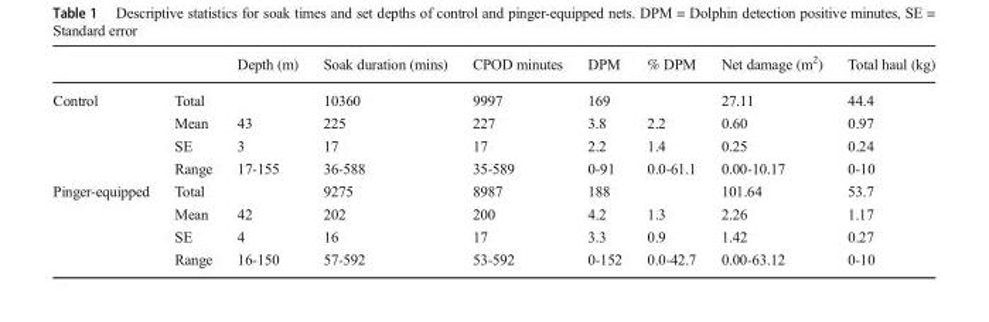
<table><thead><tr><td></td><td></td><td>Depth (m)</td><td>Soak duration (mins)</td><td>CPOD minutes</td><td>DPM</td><td>% DPM</td><td>Net damage (m<sup>2</sup>)</td><td>Total haul (kg)</td></tr></thead><tbody><tr><td rowspan="4">Control</td><td>Total</td><td></td><td>10360</td><td>9997</td><td>169</td><td></td><td>27.11</td><td>44.4</td></tr><tr><td>Mean</td><td>43</td><td>225</td><td>227</td><td>3.8</td><td>2.2</td><td>0.60</td><td>0.97</td></tr><tr><td>SE</td><td>3</td><td>17</td><td>17</td><td>2.2</td><td>1.4</td><td>0.25</td><td>0.24</td></tr><tr><td>Range</td><td>17-155</td><td>36-588</td><td>35-589</td><td>0-91</td><td>0.0-61.1</td><td>0.00-10.17</td><td>0-10</td></tr><tr><td rowspan="4">Pinger-equipped</td><td>Total</td><td></td><td>9275</td><td>8987</td><td>188</td><td></td><td>101.64</td><td>53.7</td></tr><tr><td>Mean</td><td>42</td><td>202</td><td>200</td><td>4.2</td><td>1.3</td><td>2.26</td><td>1.17</td></tr><tr><td>SE</td><td>4</td><td>16</td><td>17</td><td>3.3</td><td>0.9</td><td>1.42</td><td>0.27</td></tr><tr><td>Range</td><td>16-150</td><td>57-592</td><td>53-592</td><td>0-152</td><td>0.0-42.7</td><td>0.00-63.12</td><td>0-10</td></tr></tbody></table>